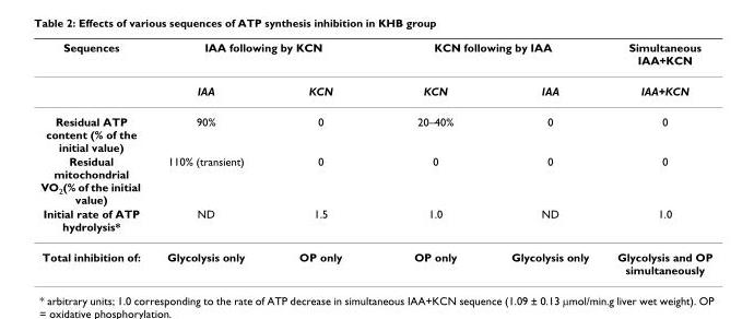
<table><thead><tr><td rowspan="2">Sequences</td><td colspan="2">IAA following by KCN</td><td colspan="2">KCN following by IAA</td><td rowspan="2">Simultaneous IAA+KCN IAA+KCN</td></tr><tr><td>IAA</td><td>KCN</td><td>KCN</td><td>IAA</td></tr></thead><tbody><tr><td>Residual ATP content (% of the initial value)</td><td>90%</td><td>0</td><td>20–40%</td><td>0</td><td>0</td></tr><tr><td>Residual mitochondrial VO<sub>2</sub>(% of the initial value)</td><td>110% (transient)</td><td>0</td><td>0</td><td>0</td><td>0</td></tr><tr><td>Initial rate of ATP hydrolysis*</td><td>ND</td><td>1.5</td><td>1.0</td><td>ND</td><td>1.0</td></tr><tr><td>Total inhibition of:</td><td>Glycolysis only</td><td>OP only</td><td>OP only</td><td>Glycolysis only</td><td>Glycolysis and OP simultaneously</td></tr></tbody></table>